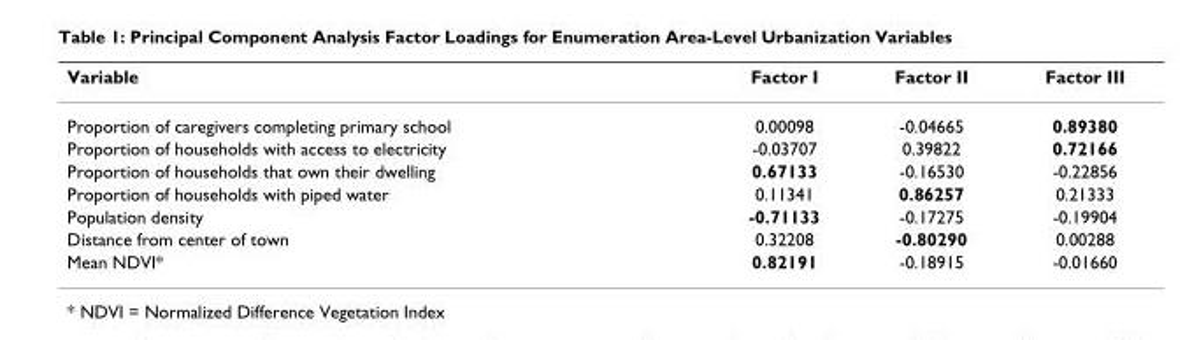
<table><thead><tr><td>Variable</td><td>Factor I</td><td>Factor II</td><td>Factor III</td></tr></thead><tbody><tr><td>Proportion of caregivers completing primary school</td><td>0.00098</td><td>-0.04665</td><td>0.89380</td></tr><tr><td>Proportion of households with access to electricity</td><td>-0.03707</td><td>0.39822</td><td>0.72166</td></tr><tr><td>Proportion of households that own their dwelling</td><td>0.67133</td><td>-0.16530</td><td>-0.22856</td></tr><tr><td>Proportion of households with piped water</td><td>0.11341</td><td>0.86257</td><td>0.21333</td></tr><tr><td>Population density</td><td>-0.71133</td><td>-0.17275</td><td>-0.19904</td></tr><tr><td>Distance from center of town</td><td>0.32208</td><td>-0.80290</td><td>0.00288</td></tr><tr><td>Mean NDVI*</td><td>0.82191</td><td>-0.18915</td><td>-0.01660</td></tr></tbody></table>